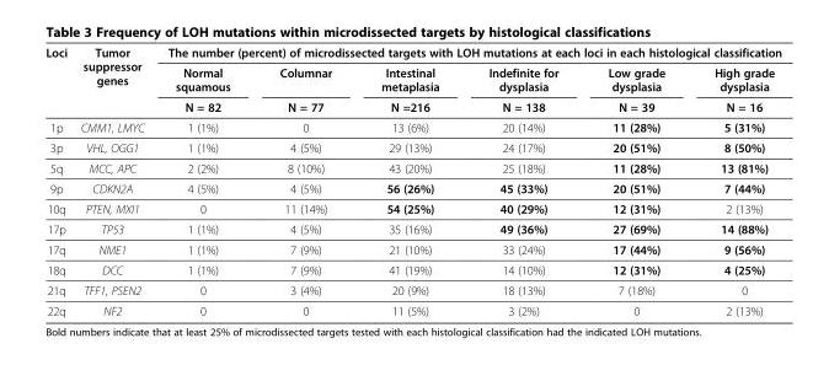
<table><thead><tr><td rowspan="3">Loci</td><td rowspan="3">Tumor suppressor genes</td><td colspan="6">The number (percent) of microdissected targets with LOH mutations at each loci in each histological classification</td></tr><tr><td rowspan="2">Normal squamous N = 82</td><td rowspan="2">Columnar N = 77</td><td rowspan="2">Intestinal metaplasia N =216</td><td rowspan="2">Indefinite for dysplasia N = 138</td><td rowspan="2">Low grade dysplasia N = 39</td><td rowspan="2">High grade dysplasia N = 16</td></tr><tr></tr></thead><tbody><tr><td>1p</td><td>CMM1, LMYC</td><td>1 (1%)</td><td>0</td><td>13 (6%)</td><td>20 (14%)</td><td>11 (28%)</td><td>5 (31%)</td></tr><tr><td>3p</td><td>VHL, OGG1</td><td>1 (1%)</td><td>4 (5%)</td><td>29 (13%)</td><td>24 (17%)</td><td>20 (51%)</td><td>8 (50%)</td></tr><tr><td>5q</td><td>MCC, APC</td><td>2 (2%)</td><td>8 (10%)</td><td>43 (20%)</td><td>25 (18%)</td><td>11 (28%)</td><td>13 (81%)</td></tr><tr><td>9p</td><td>CDKN2A</td><td>4 (5%)</td><td>4 (5%)</td><td>56 (26%)</td><td>45 (33%)</td><td>20 (51%)</td><td>7 (44%)</td></tr><tr><td>10q</td><td>PTEN, MXI1</td><td>0</td><td>11 (14%)</td><td>54 (25%)</td><td>40 (29%)</td><td>12 (31%)</td><td>2 (13%)</td></tr><tr><td>17p</td><td>TP53</td><td>1 (1%)</td><td>4 (5%)</td><td>35 (16%)</td><td>49 (36%)</td><td>27 (69%)</td><td>14 (88%)</td></tr><tr><td>17q</td><td>NME1</td><td>1 (1%)</td><td>7 (9%)</td><td>21 (10%)</td><td>33 (24%)</td><td>17 (44%)</td><td>9 (56%)</td></tr><tr><td>18q</td><td>DCC</td><td>1 (1%)</td><td>7 (9%)</td><td>41 (19%)</td><td>14 (10%)</td><td>12 (31%)</td><td>4 (25%)</td></tr><tr><td>21q</td><td>TFF1, PSEN2</td><td>0</td><td>3 (4%)</td><td>20 (9%)</td><td>18 (13%)</td><td>7 (18%)</td><td>0</td></tr><tr><td>22q</td><td>NF2</td><td>0</td><td>0</td><td>11 (5%)</td><td>3 (2%)</td><td>0</td><td>2 (13%)</td></tr></tbody></table>